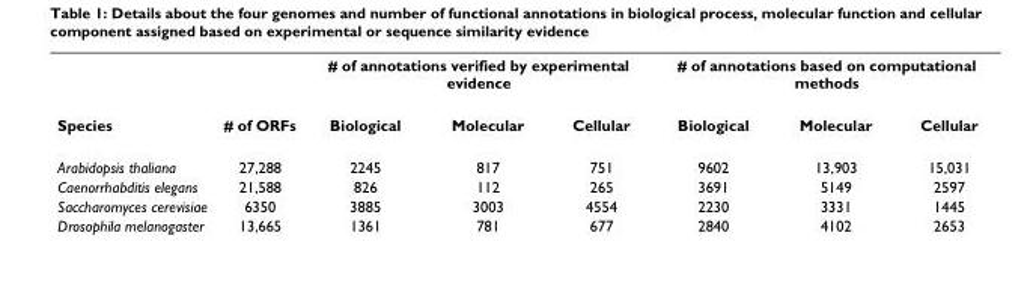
<table><thead><tr><td rowspan="2">Species</td><td rowspan="2"># of ORFs</td><td colspan="3"># of annotations verified by experimental evidence</td><td colspan="3"># of annotations based on computational methods</td></tr><tr><td>Biological</td><td>Molecular</td><td>Cellular</td><td>Biological</td><td>Molecular</td><td>Cellular</td></tr></thead><tbody><tr><td>Arabidopsis thaliana</td><td>27,288</td><td>2245</td><td>817</td><td>751</td><td>9602</td><td>13,903</td><td>15,031</td></tr><tr><td>Caenorrhabditis elegans</td><td>21,588</td><td>826</td><td>112</td><td>265</td><td>3691</td><td>5149</td><td>2597</td></tr><tr><td>Saccharomyces cerevisiae</td><td>6350</td><td>3885</td><td>3003</td><td>4554</td><td>2230</td><td>3331</td><td>1445</td></tr><tr><td>Drosophila melanogaster</td><td>13,665</td><td>1361</td><td>781</td><td>677</td><td>2840</td><td>4102</td><td>2653</td></tr></tbody></table>